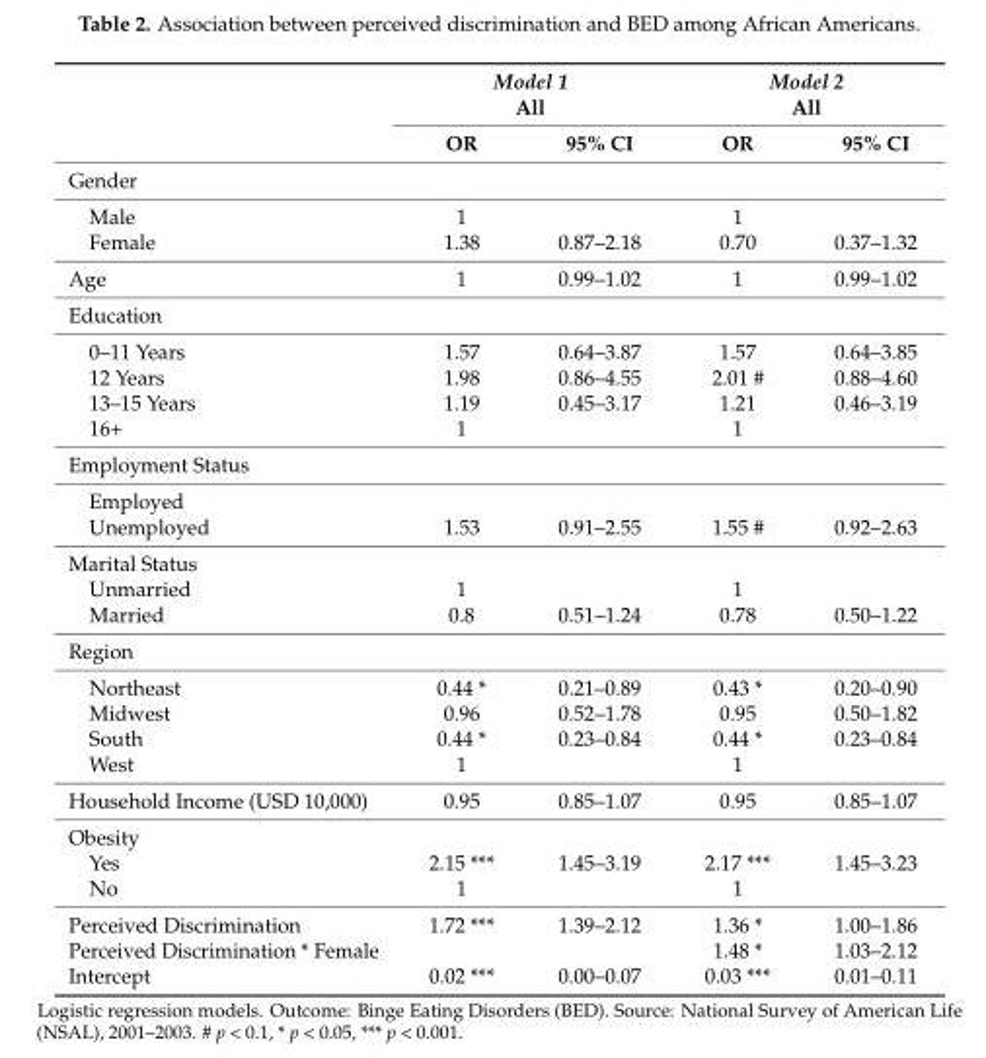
<table><thead><tr><td rowspan="2"></td><td colspan="2">Model 1 All</td><td colspan="2">Model 2 All</td></tr><tr><td>OR</td><td>95% CI</td><td>OR</td><td>95% CI</td></tr></thead><tbody><tr><td colspan="5">Gender</td></tr><tr><td>Male</td><td>1</td><td></td><td>1</td><td></td></tr><tr><td>Female</td><td>1.38</td><td>0.87–2.18</td><td>0.70</td><td>0.37–1.32</td></tr><tr><td>Age</td><td>1</td><td>0.99–1.02</td><td>1</td><td>0.99–1.02</td></tr><tr><td colspan="5">Education</td></tr><tr><td>0–11 Years</td><td>1.57</td><td>0.64–3.87</td><td>1.57</td><td>0.64–3.85</td></tr><tr><td>12 Years</td><td>1.98</td><td>0.86–4.55</td><td>2.01 #</td><td>0.88–4.60</td></tr><tr><td>13–15 Years</td><td>1.19</td><td>0.45–3.17</td><td>1.21</td><td>0.46–3.19</td></tr><tr><td>16+</td><td>1</td><td></td><td>1</td><td></td></tr><tr><td colspan="5">Employment Status</td></tr><tr><td colspan="5">Employed</td></tr><tr><td>Unemployed</td><td>1.53</td><td>0.91–2.55</td><td>1.55 #</td><td>0.92–2.63</td></tr><tr><td colspan="5">Marital Status</td></tr><tr><td>Unmarried</td><td>1</td><td></td><td>1</td><td></td></tr><tr><td>Married</td><td>0.8</td><td>0.51–1.24</td><td>0.78</td><td>0.50–1.22</td></tr><tr><td colspan="5">Region</td></tr><tr><td>Northeast</td><td>0.44 *</td><td>0.21–0.89</td><td>0.43 *</td><td>0.20–0.90</td></tr><tr><td>Midwest</td><td>0.96</td><td>0.52–1.78</td><td>0.95</td><td>0.50–1.82</td></tr><tr><td>South</td><td>0.44 *</td><td>0.23–0.84</td><td>0.44 *</td><td>0.23–0.84</td></tr><tr><td>West</td><td>1</td><td></td><td>1</td><td></td></tr><tr><td>Household Income (USD 10,000)</td><td>0.95</td><td>0.85–1.07</td><td>0.95</td><td>0.85–1.07</td></tr><tr><td colspan="5">Obesity</td></tr><tr><td>Yes</td><td>2.15 ***</td><td>1.45–3.19</td><td>2.17 ***</td><td>1.45–3.23</td></tr><tr><td>No</td><td>1</td><td></td><td>1</td><td></td></tr><tr><td>Perceived Discrimination</td><td>1.72 ***</td><td>1.39–2.12</td><td>1.36 *</td><td>1.00–1.86</td></tr><tr><td>Perceived Discrimination * Female</td><td></td><td></td><td>1.48 *</td><td>1.03–2.12</td></tr><tr><td>Intercept</td><td>0.02 ***</td><td>0.00–0.07</td><td>0.03 ***</td><td>0.01–0.11</td></tr></tbody></table>